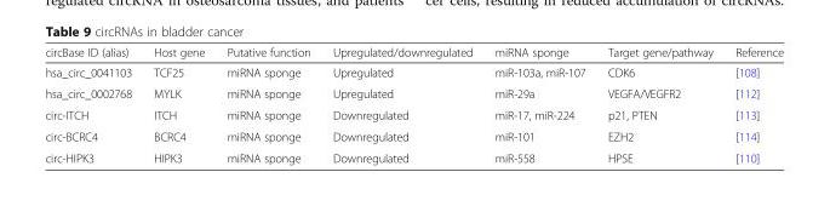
<table><thead><tr><td>circBase ID (alias)</td><td>Host gene</td><td>Putative function</td><td>Upregulated/downregulated</td><td>miRNA sponge</td><td>Target gene/pathway</td><td>Reference</td></tr></thead><tbody><tr><td>hsa_circ_0041103</td><td>TCF25</td><td>miRNA sponge</td><td>Upregulated</td><td>miR-103a, miR-107</td><td>CDK6</td><td>[108]</td></tr><tr><td>hsa_circ_0002768</td><td>MYLK</td><td>miRNA sponge</td><td>Upregulated</td><td>miR-29a</td><td>VEGFA/VEGFR2</td><td>[112]</td></tr><tr><td>circ-ITCH</td><td>ITCH</td><td>miRNA sponge</td><td>Downregulated</td><td>miR-17, miR-224</td><td>p21, PTEN</td><td>[113]</td></tr><tr><td>circ-BCRC4</td><td>BCRC4</td><td>miRNA sponge</td><td>Downregulated</td><td>miR-101</td><td>EZH2</td><td>[114]</td></tr><tr><td>circ-HIPK3</td><td>HIPK3</td><td>miRNA sponge</td><td>Downregulated</td><td>miR-558</td><td>HPSE</td><td>[110]</td></tr></tbody></table>